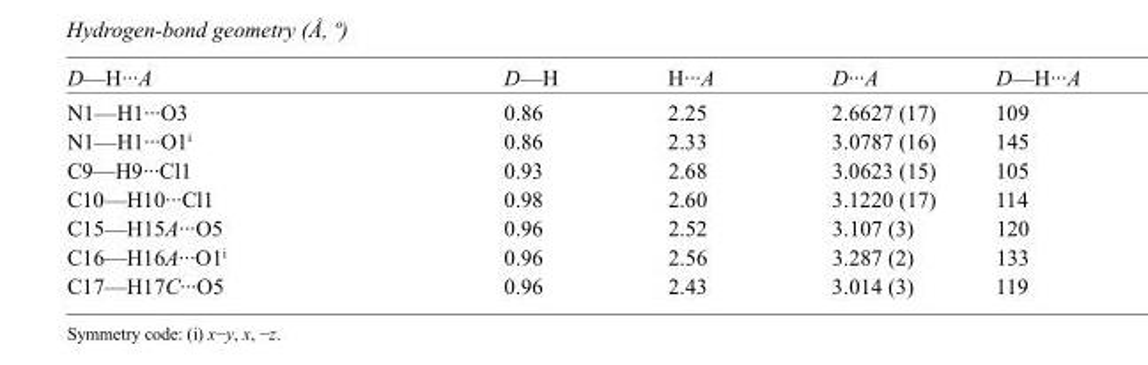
<table><tbody><tr><td>D—H···A</td><td>D—H</td><td>H···A</td><td>D···A</td><td>D—H···A</td></tr><tr><td>N1—H1···O3</td><td>0.86</td><td>2.25</td><td>2.6627 (17)</td><td>109</td></tr><tr><td>N1—H1···O1<sup>i</sup></td><td>0.86</td><td>2.33</td><td>3.0787 (16)</td><td>145</td></tr><tr><td>C9—H9···Cl1</td><td>0.93</td><td>2.68</td><td>3.0623 (15)</td><td>105</td></tr><tr><td>C10—H10···Cl1</td><td>0.98</td><td>2.60</td><td>3.1220 (17)</td><td>114</td></tr><tr><td>C15—H15A···O5</td><td>0.96</td><td>2.52</td><td>3.107 (3)</td><td>120</td></tr><tr><td>C16—H16A···O1<sup>i</sup></td><td>0.96</td><td>2.56</td><td>3.287 (2)</td><td>133</td></tr><tr><td>C17—H17C···O5</td><td>0.96</td><td>2.43</td><td>3.014 (3)</td><td>119</td></tr></tbody></table>